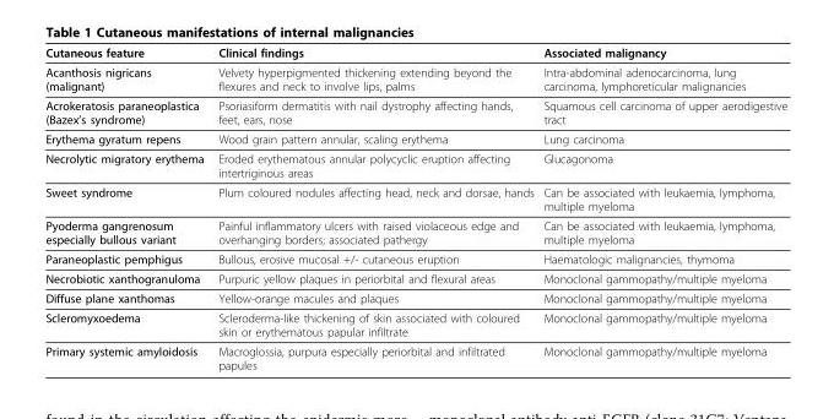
<table><thead><tr><td>Cutaneous feature</td><td>Clinical findings</td><td>Associated malignancy</td></tr></thead><tbody><tr><td>Acanthosis nigricans (malignant)</td><td>Velvety hyperpigmented thickening extending beyond the flexures and neck to involve lips, palms</td><td>Intra-abdominal adenocarcinoma, lung carcinoma, lymphoreticular malignancies</td></tr><tr><td>Acrokeratosis paraneoplastica (Bazex’s syndrome)</td><td>Psoriasiform dermatitis with nail dystrophy affecting hands, feet, ears, nose</td><td>Squamous cell carcinoma of upper aerodigestive tract</td></tr><tr><td>Erythema gyratum repens</td><td>Wood grain pattern annular, scaling erythema</td><td>Lung carcinoma</td></tr><tr><td>Necrolytic migratory erythema</td><td>Eroded erythematous annular polycyclic eruption affecting intertriginous areas</td><td>Glucagonoma</td></tr><tr><td>Sweet syndrome</td><td>Plum coloured nodules affecting head, neck and dorsae, hands</td><td>Can be associated with leukaemia, lymphoma, multiple myeloma</td></tr><tr><td>Pyoderma gangrenosum especially bullous variant</td><td>Painful inflammatory ulcers with raised violaceous edge and overhanging borders; associated pathergy</td><td>Can be associated with leukaemia, lymphoma, multiple myeloma</td></tr><tr><td>Paraneoplastic pemphigus</td><td>Bullous, erosive mucosal +/- cutaneous eruption</td><td>Haematologic malignancies, thymoma</td></tr><tr><td>Necrobiotic xanthogranuloma</td><td>Purpuric yellow plaques in periorbital and flexural areas</td><td>Monoclonal gammopathy/multiple myeloma</td></tr><tr><td>Diffuse plane xanthomas</td><td>Yellow-orange macules and plaques</td><td>Monoclonal gammopathy/multiple myeloma</td></tr><tr><td>Scleromyxoedema</td><td>Scleroderma-like thickening of skin associated with coloured skin or erythematous papular infiltrate</td><td>Monoclonal gammopathy/multiple myeloma</td></tr><tr><td>Primary systemic amyloidosis</td><td>Macroglossia, purpura especially periorbital and infiltrated papules</td><td>Monoclonal gammopathy/multiple myeloma</td></tr></tbody></table>